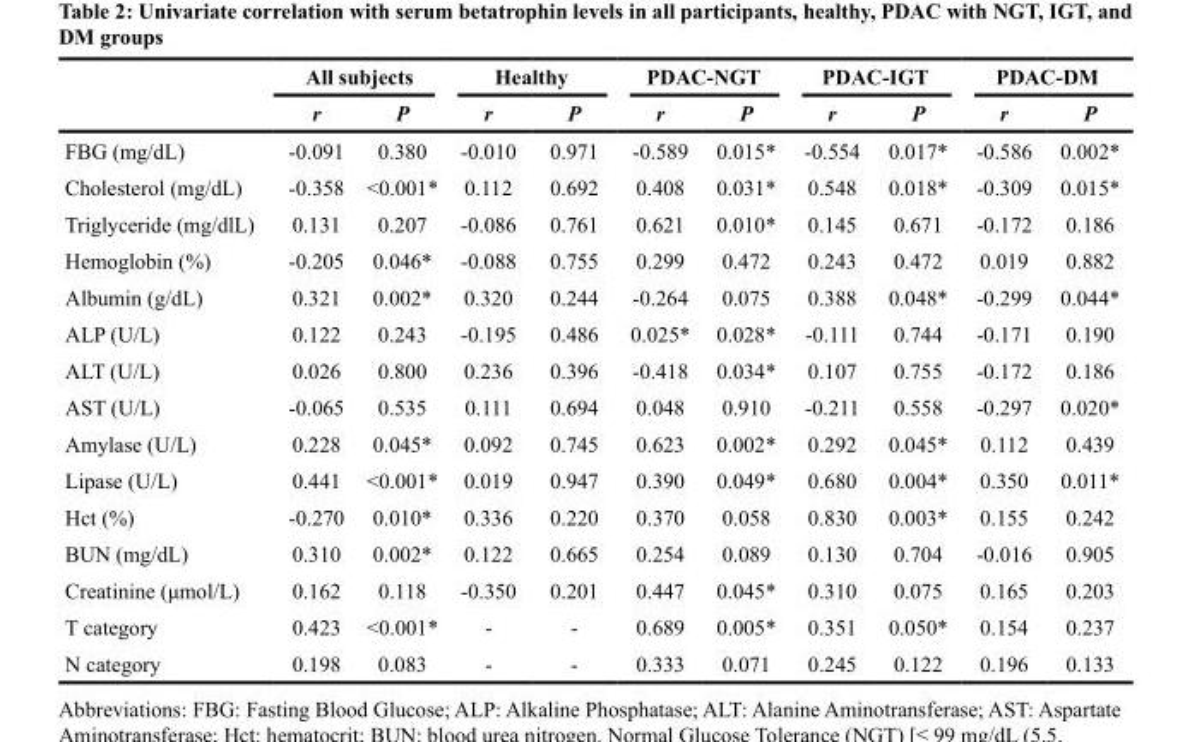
<table><thead><tr><td rowspan="2"></td><td colspan="2">All subjects</td><td colspan="2">Healthy</td><td colspan="2">PDAC-NGT</td><td colspan="2">PDAC-IGT</td><td colspan="2">PDAC-DM</td></tr><tr><td>r</td><td>P</td><td>r</td><td>P</td><td>r</td><td>P</td><td>r</td><td>P</td><td>r</td><td>P</td></tr></thead><tbody><tr><td>FBG (mg/dL)</td><td>-0.091</td><td>0.380</td><td>-0.010</td><td>0.971</td><td>-0.589</td><td>0.015*</td><td>-0.554</td><td>0.017*</td><td>-0.586</td><td>0.002*</td></tr><tr><td>Cholesterol (mg/dL)</td><td>-0.358</td><td>&lt;0.001*</td><td>0.112</td><td>0.692</td><td>0.408</td><td>0.031*</td><td>0.548</td><td>0.018*</td><td>-0.309</td><td>0.015*</td></tr><tr><td>Triglyceride (mg/dlL)</td><td>0.131</td><td>0.207</td><td>-0.086</td><td>0.761</td><td>0.621</td><td>0.010*</td><td>0.145</td><td>0.671</td><td>-0.172</td><td>0.186</td></tr><tr><td>Hemoglobin (%)</td><td>-0.205</td><td>0.046*</td><td>-0.088</td><td>0.755</td><td>0.299</td><td>0.472</td><td>0.243</td><td>0.472</td><td>0.019</td><td>0.882</td></tr><tr><td>Albumin (g/dL)</td><td>0.321</td><td>0.002*</td><td>0.320</td><td>0.244</td><td>-0.264</td><td>0.075</td><td>0.388</td><td>0.048*</td><td>-0.299</td><td>0.044*</td></tr><tr><td>ALP (U/L)</td><td>0.122</td><td>0.243</td><td>-0.195</td><td>0.486</td><td>0.025*</td><td>0.028*</td><td>-0.111</td><td>0.744</td><td>-0.171</td><td>0.190</td></tr><tr><td>ALT (U/L)</td><td>0.026</td><td>0.800</td><td>0.236</td><td>0.396</td><td>-0.418</td><td>0.034*</td><td>0.107</td><td>0.755</td><td>-0.172</td><td>0.186</td></tr><tr><td>AST (U/L)</td><td>-0.065</td><td>0.535</td><td>0.111</td><td>0.694</td><td>0.048</td><td>0.910</td><td>-0.211</td><td>0.558</td><td>-0.297</td><td>0.020*</td></tr><tr><td>Amylase (U/L)</td><td>0.228</td><td>0.045*</td><td>0.092</td><td>0.745</td><td>0.623</td><td>0.002*</td><td>0.292</td><td>0.045*</td><td>0.112</td><td>0.439</td></tr><tr><td>Lipase (U/L)</td><td>0.441</td><td>&lt;0.001*</td><td>0.019</td><td>0.947</td><td>0.390</td><td>0.049*</td><td>0.680</td><td>0.004*</td><td>0.350</td><td>0.011*</td></tr><tr><td>Hct (%)</td><td>-0.270</td><td>0.010*</td><td>0.336</td><td>0.220</td><td>0.370</td><td>0.058</td><td>0.830</td><td>0.003*</td><td>0.155</td><td>0.242</td></tr><tr><td>BUN (mg/dL)</td><td>0.310</td><td>0.002*</td><td>0.122</td><td>0.665</td><td>0.254</td><td>0.089</td><td>0.130</td><td>0.704</td><td>-0.016</td><td>0.905</td></tr><tr><td>Creatinine (μmol/L)</td><td>0.162</td><td>0.118</td><td>-0.350</td><td>0.201</td><td>0.447</td><td>0.045*</td><td>0.310</td><td>0.075</td><td>0.165</td><td>0.203</td></tr><tr><td>T category</td><td>0.423</td><td>&lt;0.001*</td><td>-</td><td>-</td><td>0.689</td><td>0.005*</td><td>0.351</td><td>0.050*</td><td>0.154</td><td>0.237</td></tr><tr><td>N category</td><td>0.198</td><td>0.083</td><td>-</td><td>-</td><td>0.333</td><td>0.071</td><td>0.245</td><td>0.122</td><td>0.196</td><td>0.133</td></tr></tbody></table>